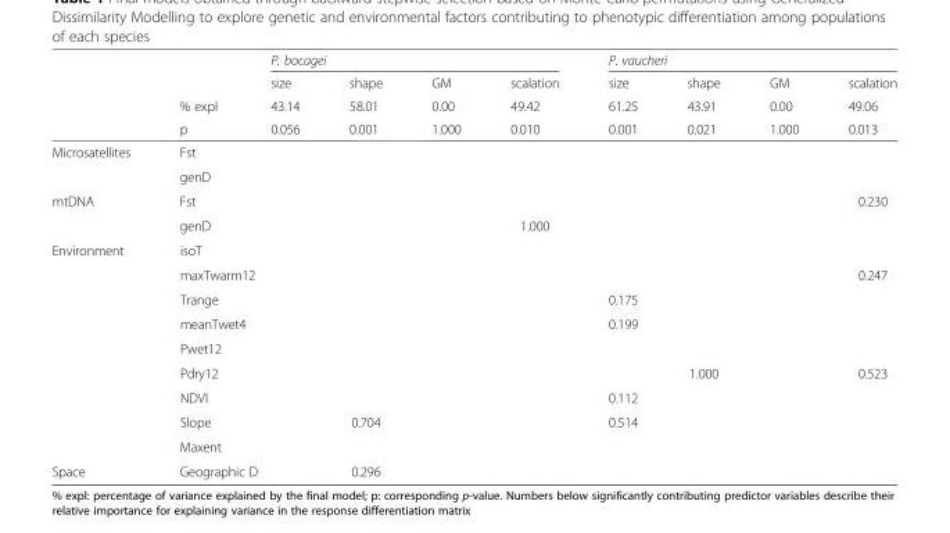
<table><thead><tr><td rowspan="4"></td><td rowspan="4">% expl p</td><td colspan="4">P. bocagei</td><td colspan="4">P. vaucheri</td></tr><tr><td rowspan="3">size 43.14 0.056</td><td rowspan="3">shape 58.01 0.001</td><td rowspan="3">GM 0.00 1.000</td><td rowspan="3">scalation 49.42 0.010</td><td rowspan="3">size 61.25 0.001</td><td rowspan="3">shape 43.91 0.021</td><td rowspan="3">GM 0.00 1.000</td><td rowspan="3">scalation 49.06 0.013</td></tr><tr></tr><tr></tr></thead><tbody><tr><td rowspan="2">Microsatellites</td><td>Fst</td><td></td><td></td><td></td><td></td><td></td><td></td><td></td><td></td></tr><tr><td>genD</td><td></td><td></td><td></td><td></td><td></td><td></td><td></td><td></td></tr><tr><td rowspan="2">mtDNA</td><td>Fst</td><td></td><td></td><td></td><td></td><td></td><td></td><td></td><td>0.230</td></tr><tr><td>genD</td><td></td><td></td><td></td><td>1.000</td><td></td><td></td><td></td><td></td></tr><tr><td rowspan="9">Environment</td><td>isoT</td><td></td><td></td><td></td><td></td><td></td><td></td><td></td><td></td></tr><tr><td colspan="2">maxTwarm12</td><td></td><td></td><td></td><td></td><td></td><td></td><td>0.247</td></tr><tr><td>Trange</td><td></td><td></td><td></td><td></td><td>0.175</td><td></td><td></td><td></td></tr><tr><td colspan="2">meanTwet4</td><td></td><td></td><td></td><td>0.199</td><td></td><td></td><td></td></tr><tr><td>Pwet12</td><td></td><td></td><td></td><td></td><td></td><td></td><td></td><td></td></tr><tr><td>Pdry12</td><td></td><td></td><td></td><td></td><td></td><td>1.000</td><td></td><td>0.523</td></tr><tr><td>NDVI</td><td></td><td></td><td></td><td></td><td>0.112</td><td></td><td></td><td></td></tr><tr><td>Slope</td><td></td><td>0.704</td><td></td><td></td><td>0.514</td><td></td><td></td><td></td></tr><tr><td>Maxent</td><td></td><td></td><td></td><td></td><td></td><td></td><td></td><td></td></tr><tr><td>Space</td><td colspan="2">Geographic D</td><td>0.296</td><td></td><td></td><td></td><td></td><td></td><td></td></tr></tbody></table>